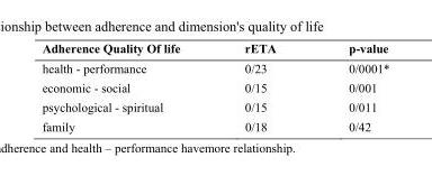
<table><thead><tr><td>Adherence Quality Of life</td><td>rETA</td><td>p-value</td></tr></thead><tbody><tr><td>health - performance</td><td>0/23</td><td>0/0001*</td></tr><tr><td>economic - social</td><td>0/15</td><td>0/001</td></tr><tr><td>psychological - spiritual</td><td>0/15</td><td>0/011</td></tr><tr><td>family</td><td>0/18</td><td>0/42</td></tr></tbody></table>